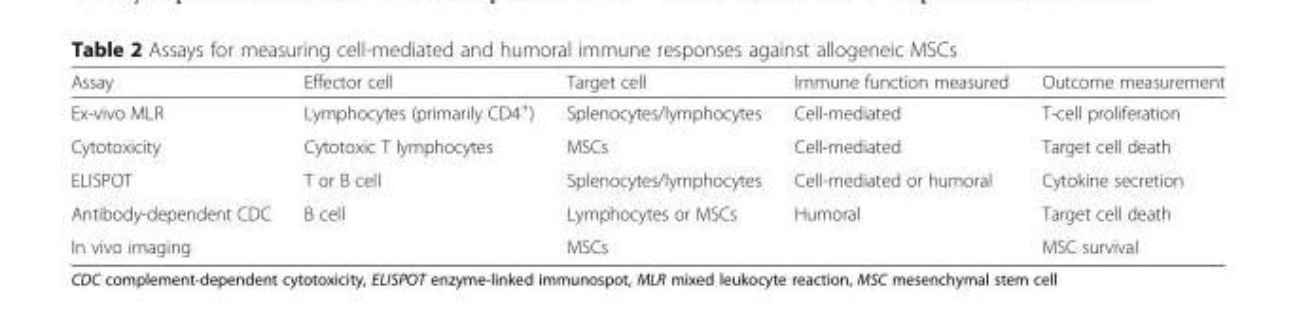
<table><thead><tr><td>Assay</td><td>Effector cell</td><td>Target cell</td><td>Immune function measured</td><td>Outcome measurement</td></tr></thead><tbody><tr><td>Ex-vivo MLR</td><td>Lymphocytes (primarily CD4<sup>+</sup>)</td><td>Splenocytes/lymphocytes</td><td>Cell-mediated</td><td>T-cell proliferation</td></tr><tr><td>Cytotoxicity</td><td>Cytotoxic T lymphocytes</td><td>MSCs</td><td>Cell-mediated</td><td>Target cell death</td></tr><tr><td>ELISPOT</td><td>T or B cell</td><td>Splenocytes/lymphocytes</td><td>Cell-mediated or humoral</td><td>Cytokine secretion</td></tr><tr><td>Antibody-dependent CDC</td><td>B cell</td><td>Lymphocytes or MSCs</td><td>Humoral</td><td>Target cell death</td></tr><tr><td>In vivo imaging</td><td></td><td>MSCs</td><td></td><td>MSC survival</td></tr></tbody></table>